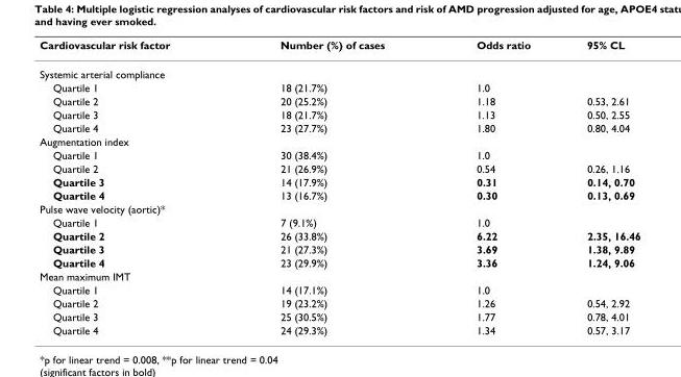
<table><thead><tr><td>Cardiovascular risk factor</td><td>Number (%) of cases</td><td>Odds ratio</td><td>95% CL</td></tr></thead><tbody><tr><td colspan="4">Systemic arterial compliance</td></tr><tr><td>Quartile 1</td><td>18 (21.7%)</td><td>1.0</td><td></td></tr><tr><td>Quartile 2</td><td>20 (25.2%)</td><td>1.18</td><td>0.53, 2.61</td></tr><tr><td>Quartile 3</td><td>18 (21.7%)</td><td>1.13</td><td>0.50, 2.55</td></tr><tr><td>Quartile 4</td><td>23 (27.7%)</td><td>1.80</td><td>0.80, 4.04</td></tr><tr><td colspan="4">Augmentation index</td></tr><tr><td>Quartile 1</td><td>30 (38.4%)</td><td>1.0</td><td></td></tr><tr><td>Quartile 2</td><td>21 (26.9%)</td><td>0.54</td><td>0.26, 1.16</td></tr><tr><td>Quartile 3</td><td>14 (17.9%)</td><td>0.31</td><td>0.14, 0.70</td></tr><tr><td>Quartile 4</td><td>13 (16.7%)</td><td>0.30</td><td>0.13, 0.69</td></tr><tr><td colspan="4">Pulse wave velocity (aortic)*</td></tr><tr><td>Quartile 1</td><td>7 (9.1%)</td><td>1.0</td><td></td></tr><tr><td>Quartile 2</td><td>26 (33.8%)</td><td>6.22</td><td>2.35, 16.46</td></tr><tr><td>Quartile 3</td><td>21 (27.3%)</td><td>3.69</td><td>1.38, 9.89</td></tr><tr><td>Quartile 4</td><td>23 (29.9%)</td><td>3.36</td><td>1.24, 9.06</td></tr><tr><td colspan="4">Mean maximum IMT</td></tr><tr><td>Quartile 1</td><td>14 (17.1%)</td><td>1.0</td><td></td></tr><tr><td>Quartile 2</td><td>19 (23.2%)</td><td>1.26</td><td>0.54, 2.92</td></tr><tr><td>Quartile 3</td><td>25 (30.5%)</td><td>1.77</td><td>0.78, 4.01</td></tr><tr><td>Quartile 4</td><td>24 (29.3%)</td><td>1.34</td><td>0.57, 3.17</td></tr></tbody></table>